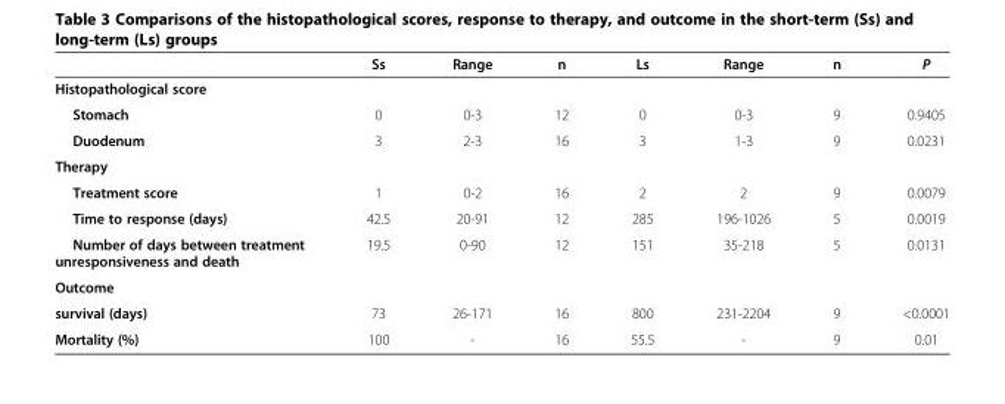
<table><thead><tr><td></td><td>Ss</td><td>Range</td><td>n</td><td>Ls</td><td>Range</td><td>n</td><td>P</td></tr></thead><tbody><tr><td colspan="8">Histopathological score</td></tr><tr><td>Stomach</td><td>0</td><td>0-3</td><td>12</td><td>0</td><td>0-3</td><td>9</td><td>0.9405</td></tr><tr><td>Duodenum</td><td>3</td><td>2-3</td><td>16</td><td>3</td><td>1-3</td><td>9</td><td>0.0231</td></tr><tr><td colspan="8">Therapy</td></tr><tr><td>Treatment score</td><td>1</td><td>0-2</td><td>16</td><td>2</td><td>2</td><td>9</td><td>0.0079</td></tr><tr><td>Time to response (days)</td><td>42.5</td><td>20-91</td><td>12</td><td>285</td><td>196-1026</td><td>5</td><td>0.0019</td></tr><tr><td>Number of days between treatment unresponsiveness and death</td><td>19.5</td><td>0-90</td><td>12</td><td>151</td><td>35-218</td><td>5</td><td>0.0131</td></tr><tr><td colspan="8">Outcome</td></tr><tr><td>survival (days)</td><td>73</td><td>26-171</td><td>16</td><td>800</td><td>231-2204</td><td>9</td><td>&lt;0.0001</td></tr><tr><td>Mortality (%)</td><td>100</td><td>-</td><td>16</td><td>55.5</td><td>-</td><td>9</td><td>0.01</td></tr></tbody></table>